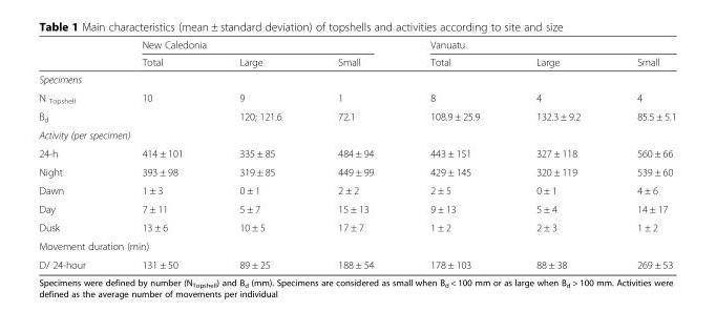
<table><thead><tr><td rowspan="2"></td><td colspan="3">New Caledonia</td><td colspan="3">Vanuatu</td></tr><tr><td>Total</td><td>Large</td><td>Small</td><td>Total</td><td>Large</td><td>Small</td></tr></thead><tbody><tr><td colspan="7">Specimens</td></tr><tr><td>N <sub>Topshell</sub></td><td>10</td><td>9</td><td>1</td><td>8</td><td>4</td><td>4</td></tr><tr><td>B<sub>d</sub></td><td></td><td>120; 121.6</td><td>72.1</td><td>108.9 ± 25.9</td><td>132.3 ± 9.2</td><td>85.5 ± 5.1</td></tr><tr><td colspan="7">Activity (per specimen)</td></tr><tr><td>24-h</td><td>414 ± 101</td><td>335 ± 85</td><td>484 ± 94</td><td>443 ± 151</td><td>327 ± 118</td><td>560 ± 66</td></tr><tr><td>Night</td><td>393 ± 98</td><td>319 ± 85</td><td>449 ± 99</td><td>429 ± 145</td><td>320 ± 119</td><td>539 ± 60</td></tr><tr><td>Dawn</td><td>1 ± 3</td><td>0 ± 1</td><td>2 ± 2</td><td>2 ± 5</td><td>0 ± 1</td><td>4 ± 6</td></tr><tr><td>Day</td><td>7 ± 11</td><td>5 ± 7</td><td>15 ± 13</td><td>9 ± 13</td><td>5 ± 4</td><td>14 ± 17</td></tr><tr><td>Dusk</td><td>13 ± 6</td><td>10 ± 5</td><td>17 ± 7</td><td>1 ± 2</td><td>2 ± 3</td><td>1 ± 2</td></tr><tr><td colspan="7">Movement duration (min)</td></tr><tr><td>D/ 24-hour</td><td>131 ± 50</td><td>89 ± 25</td><td>188 ± 54</td><td>178 ± 103</td><td>88 ± 38</td><td>269 ± 53</td></tr></tbody></table>